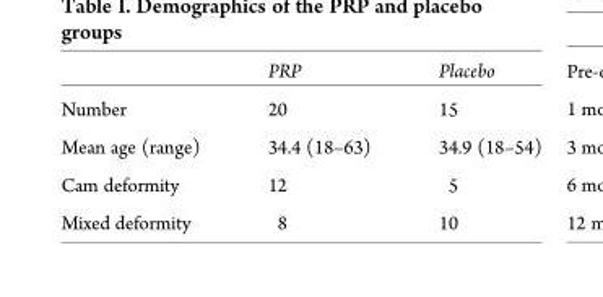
<table><thead><tr><td></td><td>PRP</td><td>Placebo</td></tr></thead><tbody><tr><td>Number</td><td>20</td><td>15</td></tr><tr><td>Mean age (range)</td><td>34.4 (18–63)</td><td>34.9 (18–54)</td></tr><tr><td>Cam deformity</td><td>12</td><td>5</td></tr><tr><td>Mixed deformity</td><td>8</td><td>10</td></tr></tbody></table>